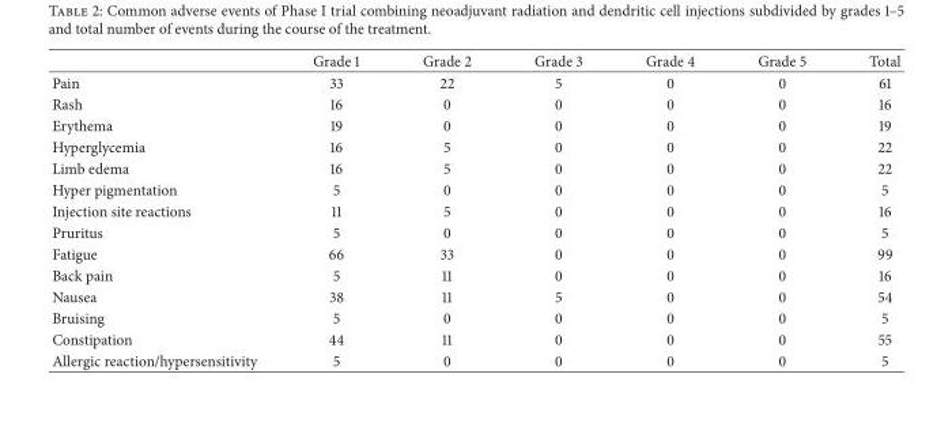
<table><thead><tr><td></td><td>Grade 1</td><td>Grade 2</td><td>Grade 3</td><td>Grade 4</td><td>Grade 5</td><td>Total</td></tr></thead><tbody><tr><td>Pain</td><td>33</td><td>22</td><td>5</td><td>0</td><td>0</td><td>61</td></tr><tr><td>Rash</td><td>16</td><td>0</td><td>0</td><td>0</td><td>0</td><td>16</td></tr><tr><td>Erythema</td><td>19</td><td>0</td><td>0</td><td>0</td><td>0</td><td>19</td></tr><tr><td>Hyperglycemia</td><td>16</td><td>5</td><td>0</td><td>0</td><td>0</td><td>22</td></tr><tr><td>Limb edema</td><td>16</td><td>5</td><td>0</td><td>0</td><td>0</td><td>22</td></tr><tr><td>Hyper pigmentation</td><td>5</td><td>0</td><td>0</td><td>0</td><td>0</td><td>5</td></tr><tr><td>Injection site reactions</td><td>11</td><td>5</td><td>0</td><td>0</td><td>0</td><td>16</td></tr><tr><td>Pruritus</td><td>5</td><td>0</td><td>0</td><td>0</td><td>0</td><td>5</td></tr><tr><td>Fatigue</td><td>66</td><td>33</td><td>0</td><td>0</td><td>0</td><td>99</td></tr><tr><td>Back pain</td><td>5</td><td>11</td><td>0</td><td>0</td><td>0</td><td>16</td></tr><tr><td>Nausea</td><td>38</td><td>11</td><td>5</td><td>0</td><td>0</td><td>54</td></tr><tr><td>Bruising</td><td>5</td><td>0</td><td>0</td><td>0</td><td>0</td><td>5</td></tr><tr><td>Constipation</td><td>44</td><td>11</td><td>0</td><td>0</td><td>0</td><td>55</td></tr><tr><td>Allergic reaction/hypersensitivity</td><td>5</td><td>0</td><td>0</td><td>0</td><td>0</td><td>5</td></tr></tbody></table>